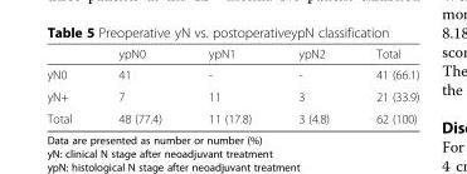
<table><thead><tr><td></td><td>ypN0</td><td>ypN1</td><td>ypN2</td><td>Total</td></tr></thead><tbody><tr><td>yN0</td><td>41</td><td>-</td><td>-</td><td>41 (66.1)</td></tr><tr><td>yN+</td><td>7</td><td>11</td><td>3</td><td>21 (33.9)</td></tr><tr><td>Total</td><td>48 (77.4)</td><td>11 (17.8)</td><td>3 (4.8)</td><td>62 (100)</td></tr></tbody></table>